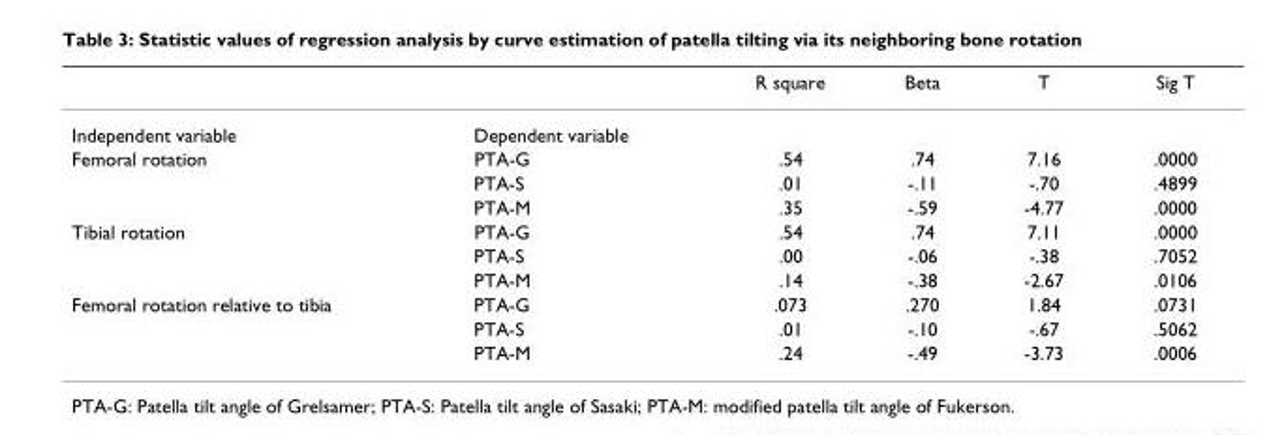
<table><thead><tr><td></td><td></td><td>R square</td><td>Beta</td><td>T</td><td>Sig T</td></tr></thead><tbody><tr><td>Independent variable</td><td>Dependent variable</td><td></td><td></td><td></td><td></td></tr><tr><td rowspan="3">Femoral rotation</td><td>PTA-G</td><td>.54</td><td>.74</td><td>7.16</td><td>.0000</td></tr><tr><td>PTA-S</td><td>.01</td><td>-.11</td><td>-.70</td><td>.4899</td></tr><tr><td>PTA-M</td><td>.35</td><td>-.59</td><td>-4.77</td><td>.0000</td></tr><tr><td rowspan="3">Tibial rotation</td><td>PTA-G</td><td>.54</td><td>.74</td><td>7.11</td><td>.0000</td></tr><tr><td>PTA-S</td><td>.00</td><td>-.06</td><td>-.38</td><td>.7052</td></tr><tr><td>PTA-M</td><td>.14</td><td>-.38</td><td>-2.67</td><td>.0106</td></tr><tr><td rowspan="3">Femoral rotation relative to tibia</td><td>PTA-G</td><td>.073</td><td>.270</td><td>1.84</td><td>.0731</td></tr><tr><td>PTA-S</td><td>.01</td><td>-.10</td><td>-.67</td><td>.5062</td></tr><tr><td>PTA-M</td><td>.24</td><td>-.49</td><td>-3.73</td><td>.0006</td></tr></tbody></table>